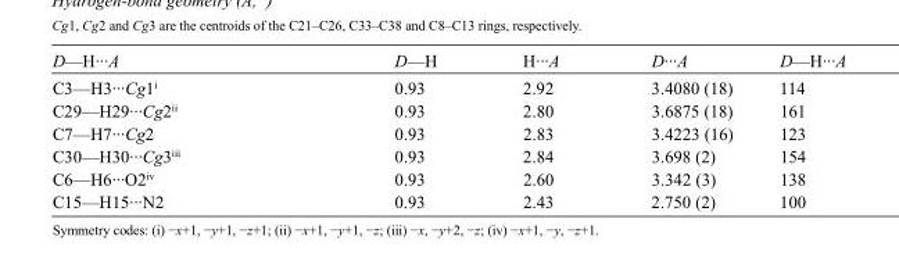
<table><tbody><tr><td>D—H···A</td><td>D—H</td><td>H···A</td><td>D···A</td><td>D—H···A</td></tr><tr><td>C3—H3···Cg1<sup>i</sup></td><td>0.93</td><td>2.92</td><td>3.4080 (18)</td><td>114</td></tr><tr><td>C29—H29···Cg2<sup>ii</sup></td><td>0.93</td><td>2.80</td><td>3.6875 (18)</td><td>161</td></tr><tr><td>C7—H7···Cg2</td><td>0.93</td><td>2.83</td><td>3.4223 (16)</td><td>123</td></tr><tr><td>C30—H30···Cg3<sup>iii</sup></td><td>0.93</td><td>2.84</td><td>3.698 (2)</td><td>154</td></tr><tr><td>C6—H6···O2<sup>iv</sup></td><td>0.93</td><td>2.60</td><td>3.342 (3)</td><td>138</td></tr><tr><td>C15—H15···N2</td><td>0.93</td><td>2.43</td><td>2.750 (2)</td><td>100</td></tr></tbody></table>